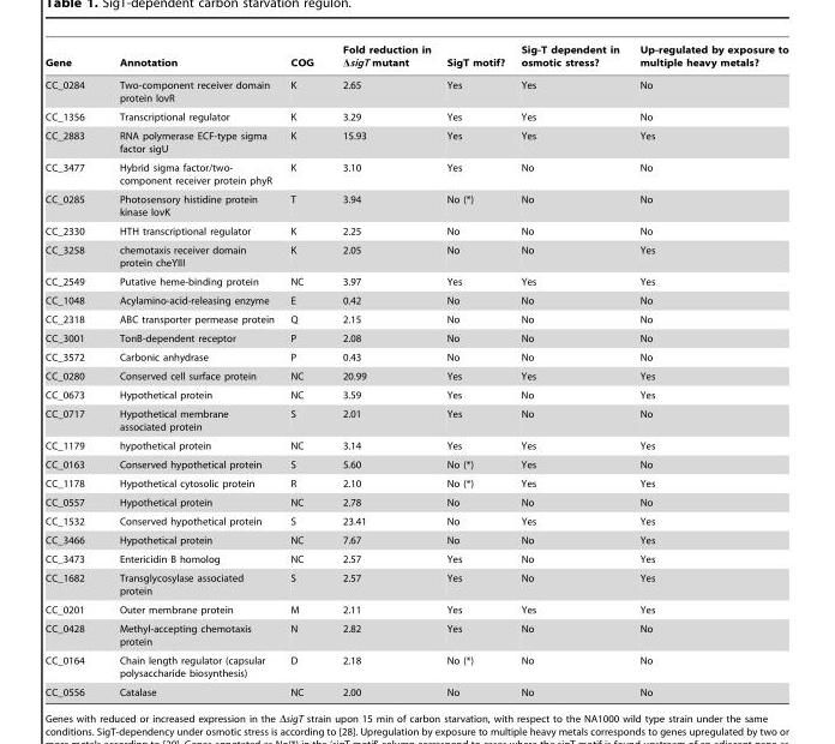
<table><thead><tr><td>Gene</td><td>Annotation</td><td>COG</td><td>Fold reduction in ΔsigT mutant</td><td>SigT motif?</td><td>Sig-T dependent in osmotic stress?</td><td>Up-regulated by exposure to multiple heavy metals?</td></tr></thead><tbody><tr><td>CC_0284</td><td>Two-component receiver domain protein lovR</td><td>K</td><td>2.65</td><td>Yes</td><td>Yes</td><td>No</td></tr><tr><td>CC_1356</td><td>Transcriptional regulator</td><td>K</td><td>3.29</td><td>Yes</td><td>Yes</td><td>No</td></tr><tr><td>CC_2883</td><td>RNA polymerase ECF-type sigma factor sigU</td><td>K</td><td>15.93</td><td>Yes</td><td>Yes</td><td>Yes</td></tr><tr><td>CC_3477</td><td>Hybrid sigma factor/two- component receiver protein phyR</td><td>K</td><td>3.10</td><td>Yes</td><td>No</td><td>No</td></tr><tr><td>CC_0285</td><td>Photosensory histidine protein kinase lovK</td><td>T</td><td>3.94</td><td>No (*)</td><td>No</td><td>No</td></tr><tr><td>CC_2330</td><td>HTH transcriptional regulator</td><td>K</td><td>2.25</td><td>No</td><td>No</td><td>No</td></tr><tr><td>CC_3258</td><td>chemotaxis receiver domain protein cheYIII</td><td>K</td><td>2.05</td><td>No</td><td>No</td><td>Yes</td></tr><tr><td>CC_2549</td><td>Putative heme-binding protein</td><td>NC</td><td>3.97</td><td>Yes</td><td>Yes</td><td>Yes</td></tr><tr><td>CC_1048</td><td>Acylamino-acid-releasing enzyme</td><td>E</td><td>0.42</td><td>No</td><td>No</td><td>No</td></tr><tr><td>CC_2318</td><td>ABC transporter permease protein</td><td>Q</td><td>2.15</td><td>No</td><td>No</td><td>No</td></tr><tr><td>CC_3001</td><td>TonB-dependent receptor</td><td>P</td><td>2.08</td><td>No</td><td>No</td><td>No</td></tr><tr><td>CC_3572</td><td>Carbonic anhydrase</td><td>P</td><td>0.43</td><td>No</td><td>No</td><td>No</td></tr><tr><td>CC_0280</td><td>Conserved cell surface protein</td><td>NC</td><td>20.99</td><td>Yes</td><td>Yes</td><td>Yes</td></tr><tr><td>CC_0673</td><td>Hypothetical protein</td><td>NC</td><td>3.59</td><td>Yes</td><td>No</td><td>Yes</td></tr><tr><td>CC_0717</td><td>Hypothetical membrane associated protein</td><td>S</td><td>2.01</td><td>Yes</td><td>No</td><td>No</td></tr><tr><td>CC_1179</td><td>hypothetical protein</td><td>NC</td><td>3.14</td><td>Yes</td><td>Yes</td><td>Yes</td></tr><tr><td>CC_0163</td><td>Conserved hypothetical protein</td><td>S</td><td>5.60</td><td>No (*)</td><td>Yes</td><td>No</td></tr><tr><td>CC_1178</td><td>Hypothetical cytosolic protein</td><td>R</td><td>2.10</td><td>No (*)</td><td>Yes</td><td>Yes</td></tr><tr><td>CC_0557</td><td>Hypothetical protein</td><td>NC</td><td>2.78</td><td>No</td><td>No</td><td>No</td></tr><tr><td>CC_1532</td><td>Conserved hypothetical protein</td><td>S</td><td>23.41</td><td>No</td><td>Yes</td><td>Yes</td></tr><tr><td>CC_3466</td><td>Hypothetical protein</td><td>NC</td><td>7.67</td><td>No</td><td>No</td><td>Yes</td></tr><tr><td>CC_3473</td><td>Entericidin B homolog</td><td>NC</td><td>2.57</td><td>Yes</td><td>No</td><td>Yes</td></tr><tr><td>CC_1682</td><td>Transglycosylase associated protein</td><td>S</td><td>2.57</td><td>Yes</td><td>No</td><td>Yes</td></tr><tr><td>CC_0201</td><td>Outer membrane protein</td><td>M</td><td>2.11</td><td>Yes</td><td>Yes</td><td>Yes</td></tr><tr><td>CC_0428</td><td>Methyl-accepting chemotaxis protein</td><td>N</td><td>2.82</td><td>Yes</td><td>No</td><td>No</td></tr><tr><td>CC_0164</td><td>Chain length regulator (capsular polysaccharide biosynthesis)</td><td>D</td><td>2.18</td><td>No (*)</td><td>No</td><td>No</td></tr><tr><td>CC_0556</td><td>Catalase</td><td>NC</td><td>2.00</td><td>No</td><td>No</td><td>No</td></tr></tbody></table>